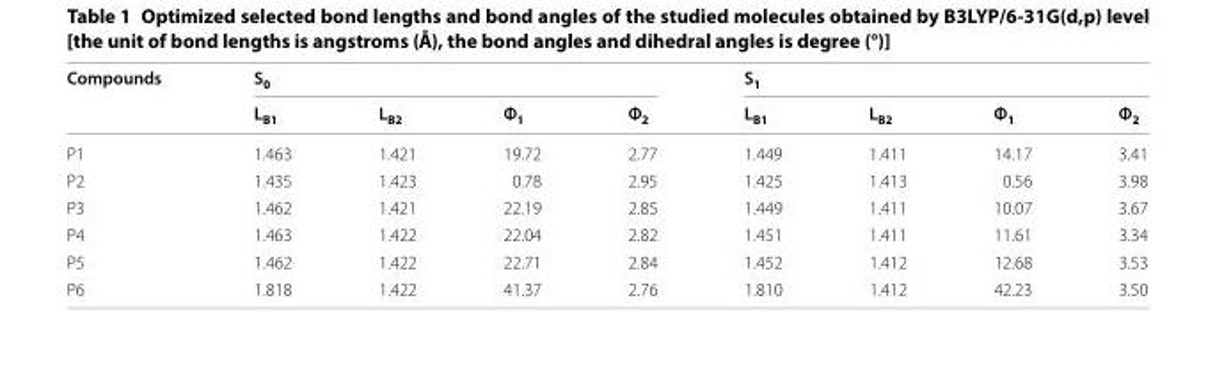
<table><thead><tr><td rowspan="2">Compounds</td><td colspan="4">S<sub>0</sub></td><td colspan="4">S<sub>1</sub></td></tr><tr><td>L<sub>B1</sub></td><td>L<sub>B2</sub></td><td>Φ<sub>1</sub></td><td>Φ<sub>2</sub></td><td>L<sub>B1</sub></td><td>L<sub>B2</sub></td><td>Φ<sub>1</sub></td><td>Φ<sub>2</sub></td></tr></thead><tbody><tr><td>P1</td><td>1.463</td><td>1.421</td><td>19.72</td><td>2.77</td><td>1.449</td><td>1.411</td><td>14.17</td><td>3.41</td></tr><tr><td>P2</td><td>1.435</td><td>1.423</td><td>0.78</td><td>2.95</td><td>1.425</td><td>1.413</td><td>0.56</td><td>3.98</td></tr><tr><td>P3</td><td>1.462</td><td>1.421</td><td>22.19</td><td>2.85</td><td>1.449</td><td>1.411</td><td>10.07</td><td>3.67</td></tr><tr><td>P4</td><td>1.463</td><td>1.422</td><td>22.04</td><td>2.82</td><td>1.451</td><td>1.411</td><td>11.61</td><td>3.34</td></tr><tr><td>P5</td><td>1.462</td><td>1.422</td><td>22.71</td><td>2.84</td><td>1.452</td><td>1.412</td><td>12.68</td><td>3.53</td></tr><tr><td>P6</td><td>1.818</td><td>1.422</td><td>41.37</td><td>2.76</td><td>1.810</td><td>1.412</td><td>42.23</td><td>3.50</td></tr></tbody></table>